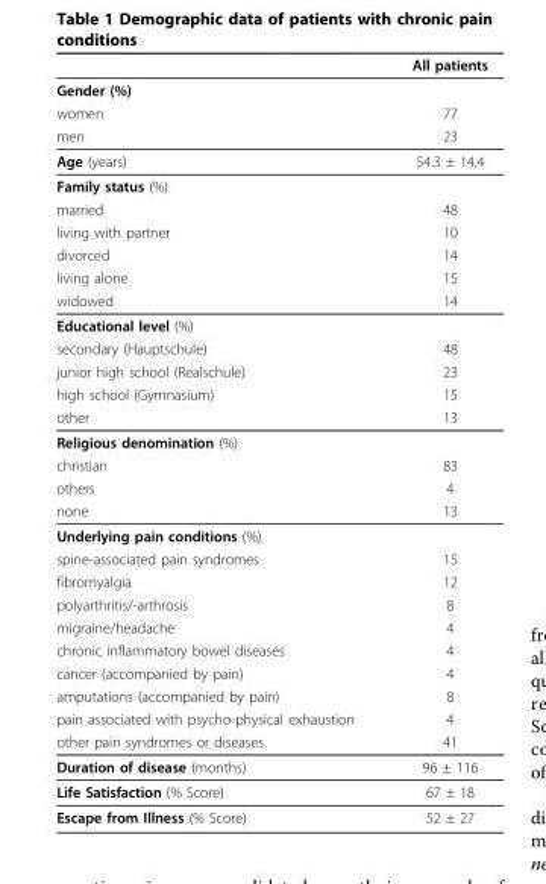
<table><thead><tr><td></td><td>All patients</td></tr></thead><tbody><tr><td colspan="2">Gender (%)</td></tr><tr><td>women</td><td>77</td></tr><tr><td>men</td><td>23</td></tr><tr><td>Age (years)</td><td>54.3 ± 14.4</td></tr><tr><td colspan="2">Family status (%)</td></tr><tr><td>married</td><td>48</td></tr><tr><td>living with partner</td><td>10</td></tr><tr><td>divorced</td><td>14</td></tr><tr><td>living alone</td><td>15</td></tr><tr><td>widowed</td><td>14</td></tr><tr><td colspan="2">Educational level (%)</td></tr><tr><td>secondary (Hauptschule)</td><td>48</td></tr><tr><td>junior high school (Realschule)</td><td>23</td></tr><tr><td>high school (Gymnasium)</td><td>15</td></tr><tr><td>other</td><td>13</td></tr><tr><td colspan="2">Religious denomination (%)</td></tr><tr><td>christian</td><td>83</td></tr><tr><td>others</td><td>4</td></tr><tr><td>none</td><td>13</td></tr><tr><td colspan="2">Underlying pain conditions (%)</td></tr><tr><td>spine-associated pain syndromes</td><td>15</td></tr><tr><td>fibromyalgia</td><td>12</td></tr><tr><td>polyarthritis/-arthrosis</td><td>8</td></tr><tr><td>migraine/headache</td><td>4</td></tr><tr><td>chronic inflammatory bowel diseases</td><td>4</td></tr><tr><td>cancer (accompanied by pain)</td><td>4</td></tr><tr><td>amputations (accompanied by pain)</td><td>8</td></tr><tr><td>pain associated with psycho-physical exhaustion</td><td>4</td></tr><tr><td>other pain syndromes or diseases</td><td>41</td></tr><tr><td>Duration of disease (months)</td><td>96 ± 116</td></tr><tr><td>Life Satisfaction (% Score)</td><td>67 ± 18</td></tr><tr><td>Escape from Illness (% Score)</td><td>52 ± 27</td></tr></tbody></table>